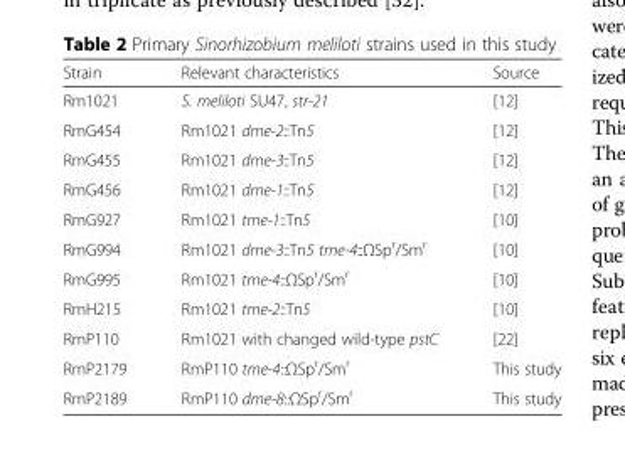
<table><thead><tr><td>Strain</td><td>Relevant characteristics</td><td>Source</td></tr></thead><tbody><tr><td>Rm1021</td><td>S. meliloti SU47, str-21</td><td>[12]</td></tr><tr><td>RmG454</td><td>Rm1021 dme-2::Tn5</td><td>[12]</td></tr><tr><td>RmG455</td><td>Rm1021 dme-3::Tn5</td><td>[12]</td></tr><tr><td>RmG456</td><td>Rm1021 dme-1::Tn5</td><td>[12]</td></tr><tr><td>RmG927</td><td>Rm1021 tme-1::Tn5</td><td>[10]</td></tr><tr><td>RmG994</td><td>Rm1021 dme-3::Tn5 tme-4::ΩSp<sup>r</sup>/Sm<sup>r</sup></td><td>[10]</td></tr><tr><td>RmG995</td><td>Rm1021 tme-4::ΩSp<sup>r</sup>/Sm<sup>r</sup></td><td>[10]</td></tr><tr><td>RmH215</td><td>Rm1021 tme-2::Tn5</td><td>[10]</td></tr><tr><td>RmP110</td><td>Rm1021 with changed wild-type pstC</td><td>[22]</td></tr><tr><td>RmP2179</td><td>RmP110 tme-4::ΩSp<sup>r</sup>/Sm<sup>r</sup></td><td>This study</td></tr><tr><td>RmP2189</td><td>RmP110 dme-8::ΩSp<sup>r</sup>/Sm<sup>r</sup></td><td>This study</td></tr></tbody></table>